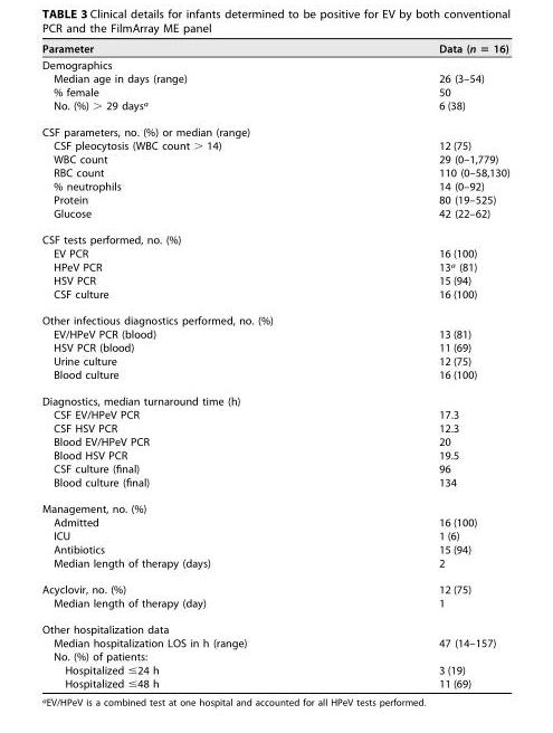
<table><thead><tr><td>Parameter</td><td>Data (n = 16)</td></tr></thead><tbody><tr><td colspan="2">Demographics</td></tr><tr><td>Median age in days (range)</td><td>26 (3–54)</td></tr><tr><td>% female</td><td>50</td></tr><tr><td>No. (%) &gt; 29 days<sup>a</sup></td><td>6 (38)</td></tr><tr><td colspan="2">CSF parameters, no. (%) or median (range)</td></tr><tr><td>CSF pleocytosis (WBC count &gt; 14)</td><td>12 (75)</td></tr><tr><td>WBC count</td><td>29 (0–1,779)</td></tr><tr><td>RBC count</td><td>110 (0–58,130)</td></tr><tr><td>% neutrophils</td><td>14 (0–92)</td></tr><tr><td>Protein</td><td>80 (19–525)</td></tr><tr><td>Glucose</td><td>42 (22–62)</td></tr><tr><td colspan="2">CSF tests performed, no. (%)</td></tr><tr><td>EV PCR</td><td>16 (100)</td></tr><tr><td>HPeV PCR</td><td>13<sup>a</sup> (81)</td></tr><tr><td>HSV PCR</td><td>15 (94)</td></tr><tr><td>CSF culture</td><td>16 (100)</td></tr><tr><td colspan="2">Other infectious diagnostics performed, no. (%)</td></tr><tr><td>EV/HPeV PCR (blood)</td><td>13 (81)</td></tr><tr><td>HSV PCR (blood)</td><td>11 (69)</td></tr><tr><td>Urine culture</td><td>12 (75)</td></tr><tr><td>Blood culture</td><td>16 (100)</td></tr><tr><td colspan="2">Diagnostics, median turnaround time (h)</td></tr><tr><td>CSF EV/HPeV PCR</td><td>17.3</td></tr><tr><td>CSF HSV PCR</td><td>12.3</td></tr><tr><td>Blood EV/HPeV PCR</td><td>20</td></tr><tr><td>Blood HSV PCR</td><td>19.5</td></tr><tr><td>CSF culture (final)</td><td>96</td></tr><tr><td>Blood culture (final)</td><td>134</td></tr><tr><td colspan="2">Management, no. (%)</td></tr><tr><td>Admitted</td><td>16 (100)</td></tr><tr><td>ICU</td><td>1 (6)</td></tr><tr><td>Antibiotics</td><td>15 (94)</td></tr><tr><td>Median length of therapy (days)</td><td>2</td></tr><tr><td>Acyclovir, no. (%)</td><td>12 (75)</td></tr><tr><td>Median length of therapy (day)</td><td>1</td></tr><tr><td colspan="2">Other hospitalization data</td></tr><tr><td>Median hospitalization LOS in h (range)</td><td>47 (14–157)</td></tr><tr><td colspan="2">No. (%) of patients:</td></tr><tr><td>Hospitalized ≤24 h</td><td>3 (19)</td></tr><tr><td>Hospitalized ≤48 h</td><td>11 (69)</td></tr></tbody></table>